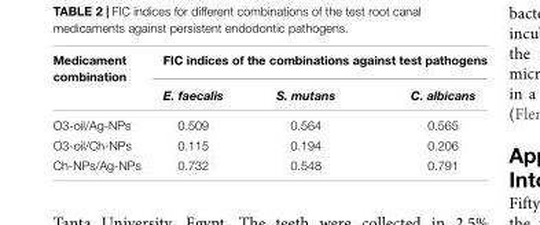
<table><thead><tr><td rowspan="2">Medicament combination</td><td colspan="3">FIC indices of the combinations against test pathogens</td></tr><tr><td>E. faecalis</td><td>S. mutans</td><td>C. albicans</td></tr></thead><tbody><tr><td>O3-oil/Ag-NPs</td><td>0.509</td><td>0.564</td><td>0.565</td></tr><tr><td>O3-oil/Ch-NPs</td><td>0.115</td><td>0.194</td><td>0.206</td></tr><tr><td>Ch-NPs/Ag-NPs</td><td>0.732</td><td>0.548</td><td>0.791</td></tr></tbody></table>